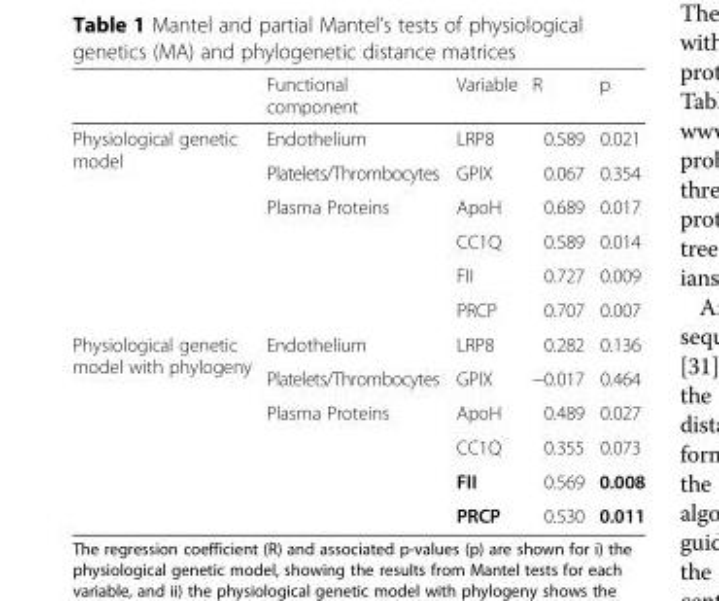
<table><thead><tr><td></td><td>Functional component</td><td>Variable</td><td>R</td><td>p</td></tr></thead><tbody><tr><td rowspan="6">Physiological genetic model</td><td>Endothelium</td><td>LRP8</td><td>0.589</td><td>0.021</td></tr><tr><td>Platelets/Thrombocytes</td><td>GPIX</td><td>0.067</td><td>0.354</td></tr><tr><td rowspan="4">Plasma Proteins</td><td>ApoH</td><td>0.689</td><td>0.017</td></tr><tr><td>CC1Q</td><td>0.589</td><td>0.014</td></tr><tr><td>FII</td><td>0.727</td><td>0.009</td></tr><tr><td>PRCP</td><td>0.707</td><td>0.007</td></tr><tr><td rowspan="6">Physiological genetic model with phylogeny</td><td>Endothelium</td><td>LRP8</td><td>0.282</td><td>0.136</td></tr><tr><td>Platelets/Thrombocytes</td><td>GPIX</td><td>−0.017</td><td>0.464</td></tr><tr><td rowspan="4">Plasma Proteins</td><td>ApoH</td><td>0.489</td><td>0.027</td></tr><tr><td>CC1Q</td><td>0.355</td><td>0.073</td></tr><tr><td>FII</td><td>0.569</td><td>0.008</td></tr><tr><td>PRCP</td><td>0.530</td><td>0.011</td></tr></tbody></table>